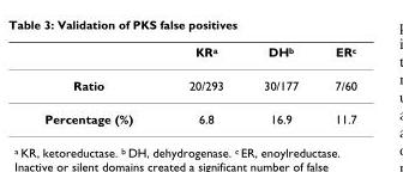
<table><thead><tr><td></td><td>KR<sup>a</sup></td><td>DH<sup>b</sup></td><td>ER<sup>c</sup></td></tr></thead><tbody><tr><td>Ratio</td><td>20/293</td><td>30/177</td><td>7/60</td></tr><tr><td>Percentage (%)</td><td>6.8</td><td>16.9</td><td>11.7</td></tr></tbody></table>